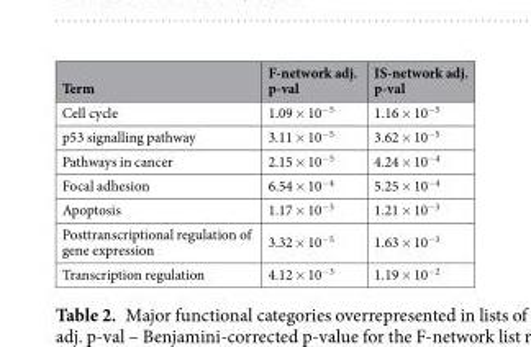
<table><thead><tr><td>Term</td><td>F-network adj. p-val</td><td>IS-network adj. p-val</td></tr></thead><tbody><tr><td>Cell cycle</td><td>1.09 × 10<sup>−5</sup></td><td>1.16 × 10<sup>−5</sup></td></tr><tr><td>p53 signalling pathway</td><td>3.11 × 10<sup>−5</sup></td><td>3.62 × 10<sup>−5</sup></td></tr><tr><td>Pathways in cancer</td><td>2.15 × 10<sup>−5</sup></td><td>4.24 × 10<sup>−4</sup></td></tr><tr><td>Focal adhesion</td><td>6.54 × 10<sup>−4</sup></td><td>5.25 × 10<sup>−4</sup></td></tr><tr><td>Apoptosis</td><td>1.17 × 10<sup>−3</sup></td><td>1.21 × 10<sup>−3</sup></td></tr><tr><td>Posttranscriptional regulation of gene expression</td><td>3.32 × 10<sup>−5</sup></td><td>1.63 × 10<sup>−3</sup></td></tr><tr><td>Transcription regulation</td><td>4.12 × 10<sup>−3</sup></td><td>1.19 × 10<sup>−2</sup></td></tr></tbody></table>